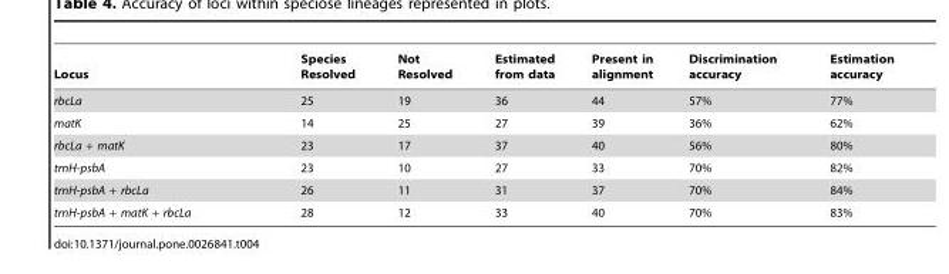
<table><thead><tr><td>Locus</td><td>Species Resolved</td><td>Not Resolved</td><td>Estimated from data</td><td>Present in alignment</td><td>Discrimination accuracy</td><td>Estimation accuracy</td></tr></thead><tbody><tr><td>rbcLa</td><td>25</td><td>19</td><td>36</td><td>44</td><td>57%</td><td>77%</td></tr><tr><td>matK</td><td>14</td><td>25</td><td>27</td><td>39</td><td>36%</td><td>62%</td></tr><tr><td>rbcLa + matK</td><td>23</td><td>17</td><td>37</td><td>40</td><td>56%</td><td>80%</td></tr><tr><td>trnH-psbA</td><td>23</td><td>10</td><td>27</td><td>33</td><td>70%</td><td>82%</td></tr><tr><td>trnH-psbA + rbcLa</td><td>26</td><td>11</td><td>31</td><td>37</td><td>70%</td><td>84%</td></tr><tr><td>trnH-psbA + matK + rbcLa</td><td>28</td><td>12</td><td>33</td><td>40</td><td>70%</td><td>83%</td></tr></tbody></table>